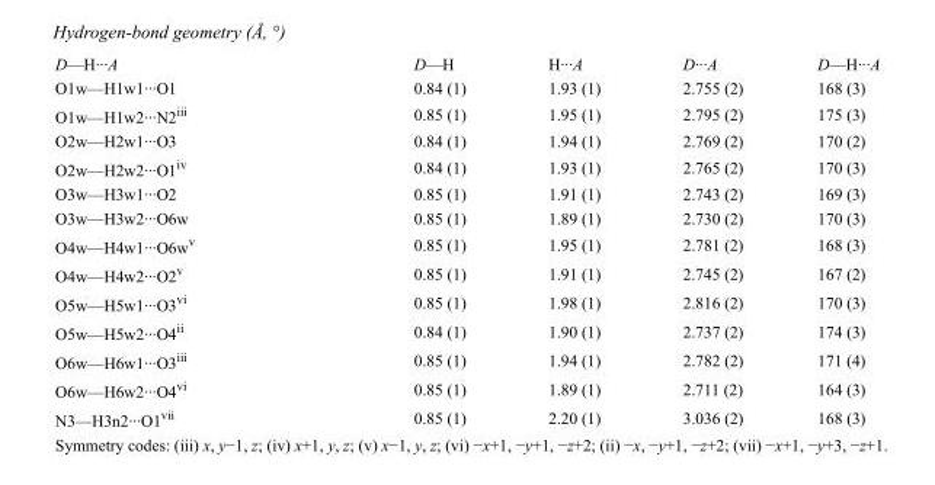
<table><tbody><tr><td>D—H···A</td><td>D—H</td><td>H···A</td><td>D···A</td><td>D—H···A</td></tr><tr><td>O1w—H1w1···O1</td><td>0.84 (1)</td><td>1.93 (1)</td><td>2.755 (2)</td><td>168 (3)</td></tr><tr><td>O1w—H1w2···N2<sup>iii</sup></td><td>0.85 (1)</td><td>1.95 (1)</td><td>2.795 (2)</td><td>175 (3)</td></tr><tr><td>O2w—H2w1···O3</td><td>0.84 (1)</td><td>1.94 (1)</td><td>2.769 (2)</td><td>170 (2)</td></tr><tr><td>O2w—H2w2···O1<sup>iv</sup></td><td>0.84 (1)</td><td>1.93 (1)</td><td>2.765 (2)</td><td>170 (3)</td></tr><tr><td>O3w—H3w1···O2</td><td>0.85 (1)</td><td>1.91 (1)</td><td>2.743 (2)</td><td>169 (3)</td></tr><tr><td>O3w—H3w2···O6w</td><td>0.85 (1)</td><td>1.89 (1)</td><td>2.730 (2)</td><td>170 (3)</td></tr><tr><td>O4w—H4w1···O6w<sup>v</sup></td><td>0.85 (1)</td><td>1.95 (1)</td><td>2.781 (2)</td><td>168 (3)</td></tr><tr><td>O4w—H4w2···O2<sup>v</sup></td><td>0.85 (1)</td><td>1.91 (1)</td><td>2.745 (2)</td><td>167 (2)</td></tr><tr><td>O5w—H5w1···O3<sup>vi</sup></td><td>0.85 (1)</td><td>1.98 (1)</td><td>2.816 (2)</td><td>170 (3)</td></tr><tr><td>O5w—H5w2···O4<sup>ii</sup></td><td>0.84 (1)</td><td>1.90 (1)</td><td>2.737 (2)</td><td>174 (3)</td></tr><tr><td>O6w—H6w1···O3<sup>iii</sup></td><td>0.85 (1)</td><td>1.94 (1)</td><td>2.782 (2)</td><td>171 (4)</td></tr><tr><td>O6w—H6w2···O4<sup>vi</sup></td><td>0.85 (1)</td><td>1.89 (1)</td><td>2.711 (2)</td><td>164 (3)</td></tr><tr><td>N3—H3n2···O1<sup>vii</sup></td><td>0.85 (1)</td><td>2.20 (1)</td><td>3.036 (2)</td><td>168 (3)</td></tr></tbody></table>